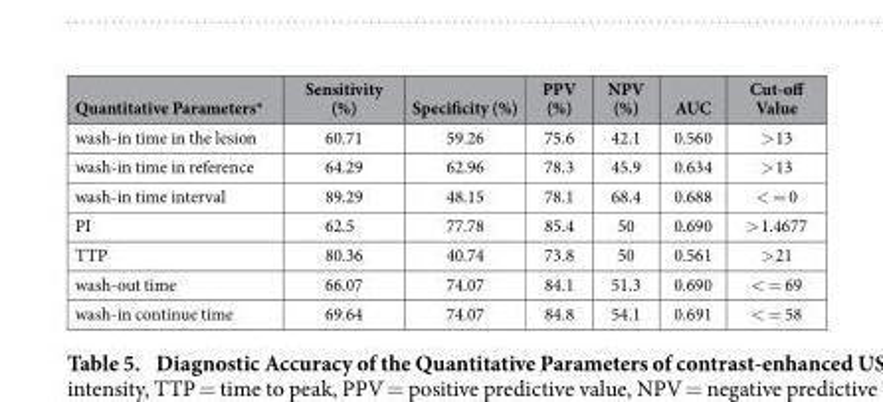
<table><thead><tr><td>Quantitative Parameters*</td><td>Sensitivity (%)</td><td>Specificity (%)</td><td>PPV (%)</td><td>NPV (%)</td><td>AUC</td><td>Cut-off Value</td></tr></thead><tbody><tr><td>wash-in time in the lesion</td><td>60.71</td><td>59.26</td><td>75.6</td><td>42.1</td><td>0.560</td><td>&gt; 13</td></tr><tr><td>wash-in time in reference</td><td>64.29</td><td>62.96</td><td>78.3</td><td>45.9</td><td>0.634</td><td>&gt; 13</td></tr><tr><td>wash-in time interval</td><td>89.29</td><td>48.15</td><td>78.1</td><td>68.4</td><td>0.688</td><td>&lt; = 0</td></tr><tr><td>PI</td><td>62.5</td><td>77.78</td><td>85.4</td><td>50</td><td>0.690</td><td>&gt; 1.4677</td></tr><tr><td>TTP</td><td>80.36</td><td>40.74</td><td>73.8</td><td>50</td><td>0.561</td><td>&gt; 21</td></tr><tr><td>wash-out time</td><td>66.07</td><td>74.07</td><td>84.1</td><td>51.3</td><td>0.690</td><td>&lt; = 69</td></tr><tr><td>wash-in continue time</td><td>69.64</td><td>74.07</td><td>84.8</td><td>54.1</td><td>0.691</td><td>&lt; = 58</td></tr></tbody></table>